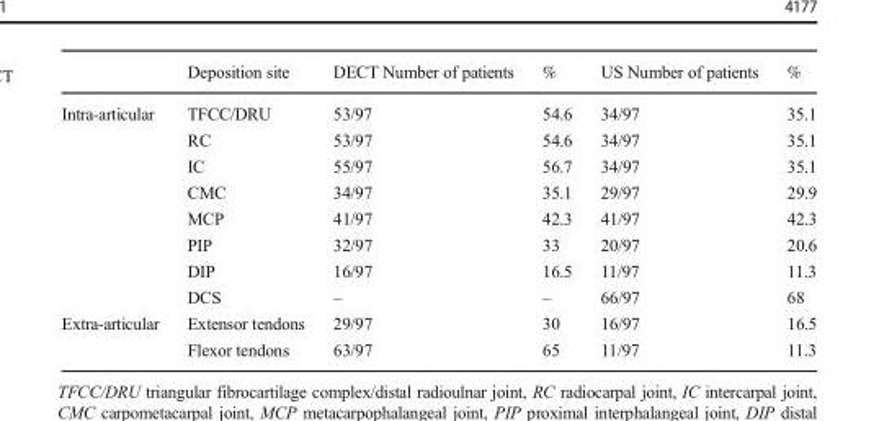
<table><thead><tr><td></td><td>Deposition site</td><td>DECT Number of patients</td><td>%</td><td>US Number of patients</td><td>%</td></tr></thead><tbody><tr><td rowspan="8">Intra-articular</td><td>TFCC/DRU</td><td>53/97</td><td>54.6</td><td>34/97</td><td>35.1</td></tr><tr><td>RC</td><td>53/97</td><td>54.6</td><td>34/97</td><td>35.1</td></tr><tr><td>IC</td><td>55/97</td><td>56.7</td><td>34/97</td><td>35.1</td></tr><tr><td>CMC</td><td>34/97</td><td>35.1</td><td>29/97</td><td>29.9</td></tr><tr><td>MCP</td><td>41/97</td><td>42.3</td><td>41/97</td><td>42.3</td></tr><tr><td>PIP</td><td>32/97</td><td>33</td><td>20/97</td><td>20.6</td></tr><tr><td>DIP</td><td>16/97</td><td>16.5</td><td>11/97</td><td>11.3</td></tr><tr><td>DCS</td><td>–</td><td>–</td><td>66/97</td><td>68</td></tr><tr><td rowspan="2">Extra-articular</td><td>Extensor tendons</td><td>29/97</td><td>30</td><td>16/97</td><td>16.5</td></tr><tr><td>Flexor tendons</td><td>63/97</td><td>65</td><td>11/97</td><td>11.3</td></tr></tbody></table>